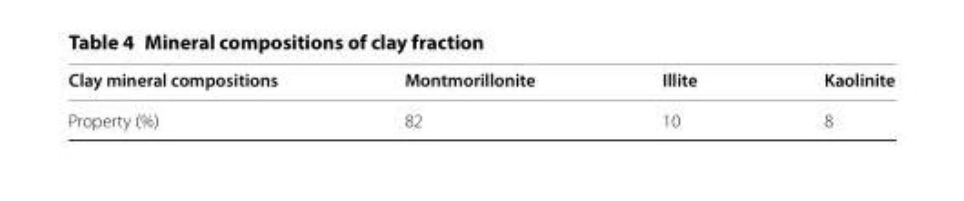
<table><thead><tr><td>Clay mineral compositions</td><td>Montmorillonite</td><td>Illite</td><td>Kaolinite</td></tr></thead><tbody><tr><td>Property (%)</td><td>82</td><td>10</td><td>8</td></tr></tbody></table>